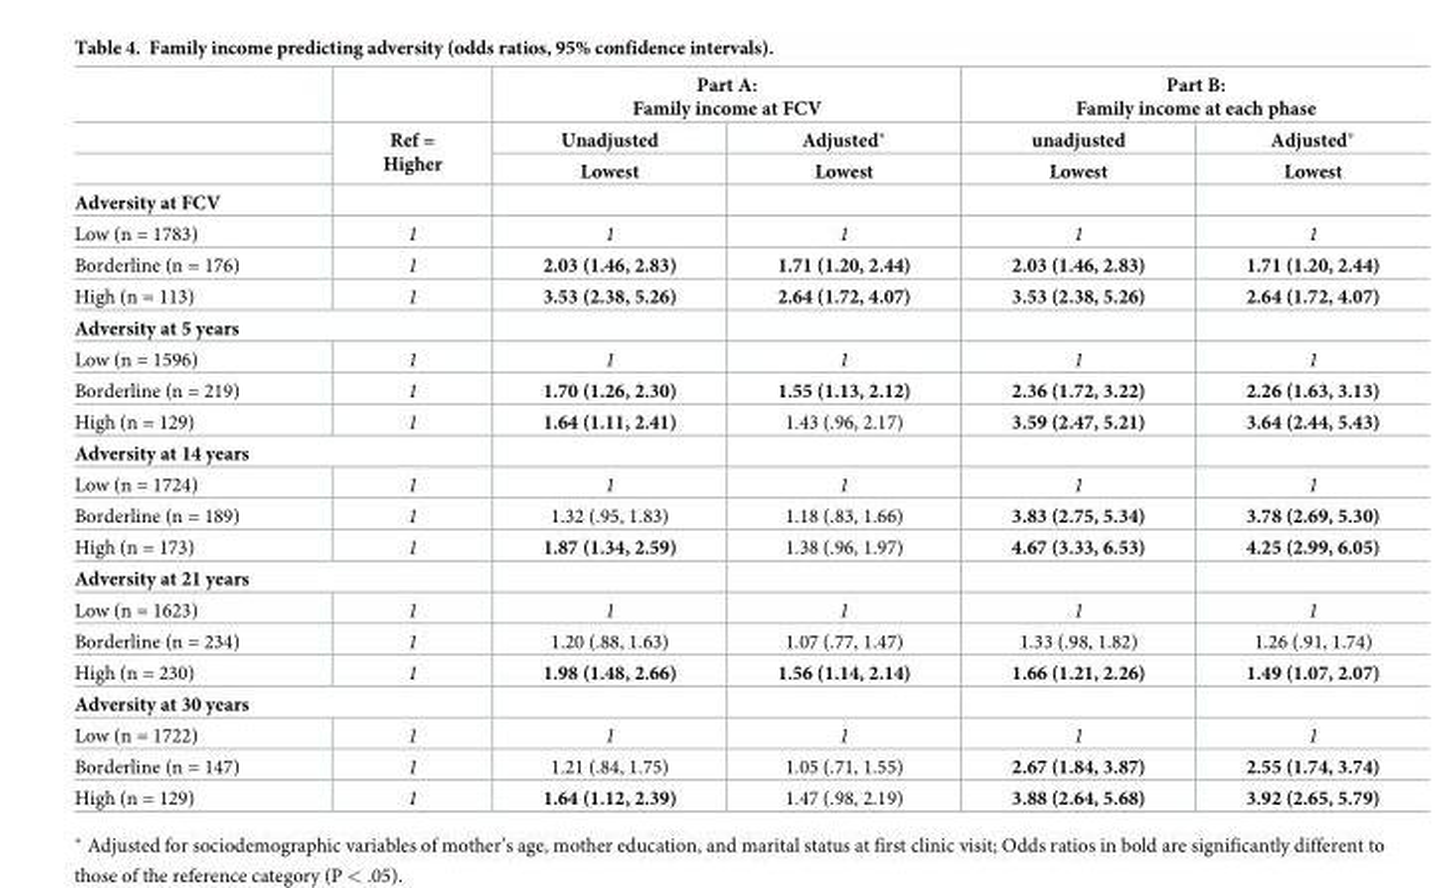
<table><thead><tr><td rowspan="3"></td><td rowspan="3">Ref = Higher</td><td colspan="2">Part A: Family income at FCV</td><td colspan="2">Part B: Family income at each phase</td></tr><tr><td rowspan="2">Unadjusted Lowest</td><td rowspan="2">Adjusted* Lowest</td><td rowspan="2">unadjusted Lowest</td><td rowspan="2">Adjusted* Lowest</td></tr><tr></tr></thead><tbody><tr><td colspan="6">Adversity at FCV</td></tr><tr><td>Low (n = 1783)</td><td>1</td><td>1</td><td>1</td><td>1</td><td>1</td></tr><tr><td>Borderline (n = 176)</td><td>1</td><td>2.03 (1.46, 2.83)</td><td>1.71 (1.20, 2.44)</td><td>2.03 (1.46, 2.83)</td><td>1.71 (1.20, 2.44)</td></tr><tr><td>High (n = 113)</td><td>1</td><td>3.53 (2.38, 5.26)</td><td>2.64 (1.72, 4.07)</td><td>3.53 (2.38, 5.26)</td><td>2.64 (1.72, 4.07)</td></tr><tr><td colspan="6">Adversity at 5 years</td></tr><tr><td>Low (n = 1596)</td><td>1</td><td>1</td><td>1</td><td>1</td><td>1</td></tr><tr><td>Borderline (n = 219)</td><td>1</td><td>1.70 (1.26, 2.30)</td><td>1.55 (1.13, 2.12)</td><td>2.36 (1.72, 3.22)</td><td>2.26 (1.63, 3.13)</td></tr><tr><td>High (n = 129)</td><td>1</td><td>1.64 (1.11, 2.41)</td><td>1.43 (.96, 2.17)</td><td>3.59 (2.47, 5.21)</td><td>3.64 (2.44, 5.43)</td></tr><tr><td colspan="6">Adversity at 14 years</td></tr><tr><td>Low (n = 1724)</td><td>1</td><td>1</td><td>1</td><td>1</td><td>1</td></tr><tr><td>Borderline (n = 189)</td><td>1</td><td>1.32 (.95, 1.83)</td><td>1.18 (.83, 1.66)</td><td>3.83 (2.75, 5.34)</td><td>3.78 (2.69, 5.30)</td></tr><tr><td>High (n = 173)</td><td>1</td><td>1.87 (1.34, 2.59)</td><td>1.38 (.96, 1.97)</td><td>4.67 (3.33, 6.53)</td><td>4.25 (2.99, 6.05)</td></tr><tr><td colspan="6">Adversity at 21 years</td></tr><tr><td>Low (n = 1623)</td><td>1</td><td>1</td><td>1</td><td>1</td><td>1</td></tr><tr><td>Borderline (n = 234)</td><td>1</td><td>1.20 (.88, 1.63)</td><td>1.07 (.77, 1.47)</td><td>1.33 (.98, 1.82)</td><td>1.26 (.91, 1.74)</td></tr><tr><td>High (n = 230)</td><td>1</td><td>1.98 (1.48, 2.66)</td><td>1.56 (1.14, 2.14)</td><td>1.66 (1.21, 2.26)</td><td>1.49 (1.07, 2.07)</td></tr><tr><td colspan="6">Adversity at 30 years</td></tr><tr><td>Low (n = 1722)</td><td>1</td><td>1</td><td>1</td><td>1</td><td>1</td></tr><tr><td>Borderline (n = 147)</td><td>1</td><td>1.21 (.84, 1.75)</td><td>1.05 (.71, 1.55)</td><td>2.67 (1.84, 3.87)</td><td>2.55 (1.74, 3.74)</td></tr><tr><td>High (n = 129)</td><td>1</td><td>1.64 (1.12, 2.39)</td><td>1.47 (.98, 2.19)</td><td>3.88 (2.64, 5.68)</td><td>3.92 (2.65, 5.79)</td></tr></tbody></table>